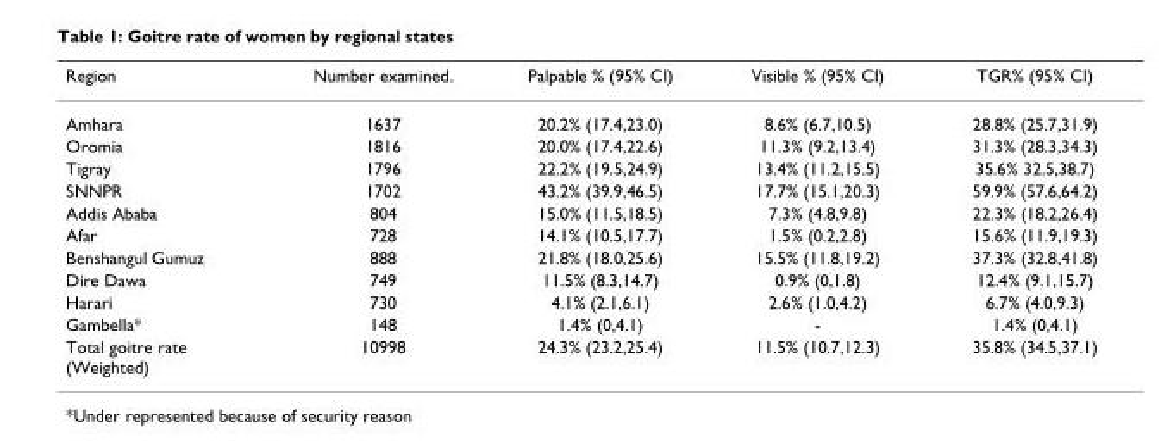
<table><thead><tr><td>Region</td><td>Number examined.</td><td>Palpable % (95% CI)</td><td>Visible % (95% CI)</td><td>TGR% (95% CI)</td></tr></thead><tbody><tr><td>Amhara</td><td>1637</td><td>20.2% (17.4,23.0)</td><td>8.6% (6.7,10.5)</td><td>28.8% (25.7,31.9)</td></tr><tr><td>Oromia</td><td>1816</td><td>20.0% (17.4,22.6)</td><td>11.3% (9.2,13.4)</td><td>31.3% (28.3,34.3)</td></tr><tr><td>Tigray</td><td>1796</td><td>22.2% (19.5,24.9)</td><td>13.4% (11.2,15.5)</td><td>35.6% 32.5,38.7)</td></tr><tr><td>SNNPR</td><td>1702</td><td>43.2% (39.9,46.5)</td><td>17.7% (15.1,20.3)</td><td>59.9% (57.6,64.2)</td></tr><tr><td>Addis Ababa</td><td>804</td><td>15.0% (11.5,18.5)</td><td>7.3% (4.8,9.8)</td><td>22.3% (18.2,26.4)</td></tr><tr><td>Afar</td><td>728</td><td>14.1% (10.5,17.7)</td><td>1.5% (0.2,2.8)</td><td>15.6% (11.9,19.3)</td></tr><tr><td>Benshangul Gumuz</td><td>888</td><td>21.8% (18.0,25.6)</td><td>15.5% (11.8,19.2)</td><td>37.3% (32.8,41.8)</td></tr><tr><td>Dire Dawa</td><td>749</td><td>11.5% (8.3,14.7)</td><td>0.9% (0,1.8)</td><td>12.4% (9.1,15.7)</td></tr><tr><td>Harari</td><td>730</td><td>4.1% (2.1,6.1)</td><td>2.6% (1.0,4.2)</td><td>6.7% (4.0,9.3)</td></tr><tr><td>Gambella*</td><td>148</td><td>1.4% (0,4.1)</td><td>-</td><td>1.4% (0,4.1)</td></tr><tr><td>Total goitre rate (Weighted)</td><td>10998</td><td>24.3% (23.2,25.4)</td><td>11.5% (10.7,12.3)</td><td>35.8% (34.5,37.1)</td></tr></tbody></table>